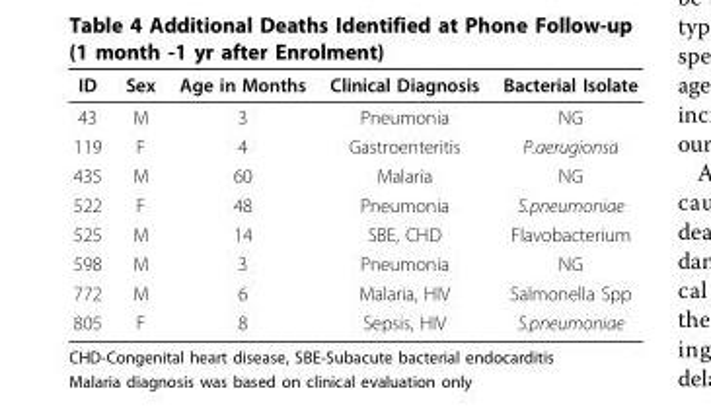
<table><thead><tr><td>ID</td><td>Sex</td><td>Age in Months</td><td>Clinical Diagnosis</td><td>Bacterial Isolate</td></tr></thead><tbody><tr><td>43</td><td>M</td><td>3</td><td>Pneumonia</td><td>NG</td></tr><tr><td>119</td><td>F</td><td>4</td><td>Gastroenteritis</td><td>P.aerugionsa</td></tr><tr><td>435</td><td>M</td><td>60</td><td>Malaria</td><td>NG</td></tr><tr><td>522</td><td>F</td><td>48</td><td>Pneumonia</td><td>S.pneumoniae</td></tr><tr><td>525</td><td>M</td><td>14</td><td>SBE, CHD</td><td>Flavobacterium</td></tr><tr><td>598</td><td>M</td><td>3</td><td>Pneumonia</td><td>NG</td></tr><tr><td>772</td><td>M</td><td>6</td><td>Malaria, HIV</td><td>Salmonella Spp</td></tr><tr><td>805</td><td>F</td><td>8</td><td>Sepsis, HIV</td><td>S.pneumoniae</td></tr></tbody></table>